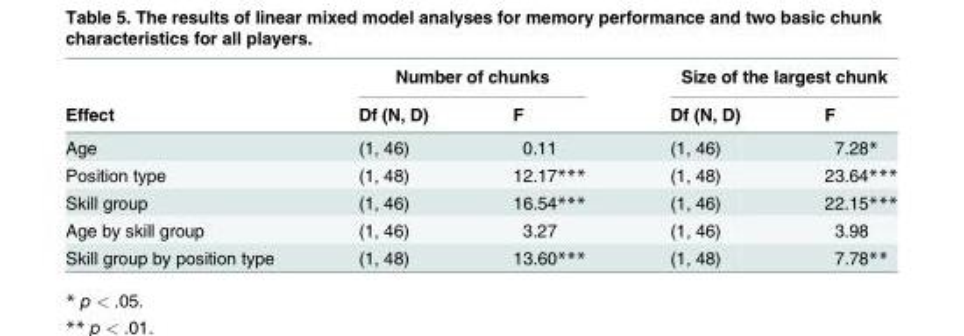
<table><thead><tr><td rowspan="2">Effect</td><td colspan="2">Number of chunks</td><td colspan="2">Size of the largest chunk</td></tr><tr><td>Df (N, D)</td><td>F</td><td>Df (N, D)</td><td>F</td></tr></thead><tbody><tr><td>Age</td><td>(1, 46)</td><td>0.11</td><td>(1, 46)</td><td>7.28*</td></tr><tr><td>Position type</td><td>(1, 48)</td><td>12.17***</td><td>(1, 48)</td><td>23.64***</td></tr><tr><td>Skill group</td><td>(1, 46)</td><td>16.54***</td><td>(1, 46)</td><td>22.15***</td></tr><tr><td>Age by skill group</td><td>(1, 46)</td><td>3.27</td><td>(1, 46)</td><td>3.98</td></tr><tr><td>Skill group by position type</td><td>(1, 48)</td><td>13.60***</td><td>(1, 48)</td><td>7.78**</td></tr></tbody></table>